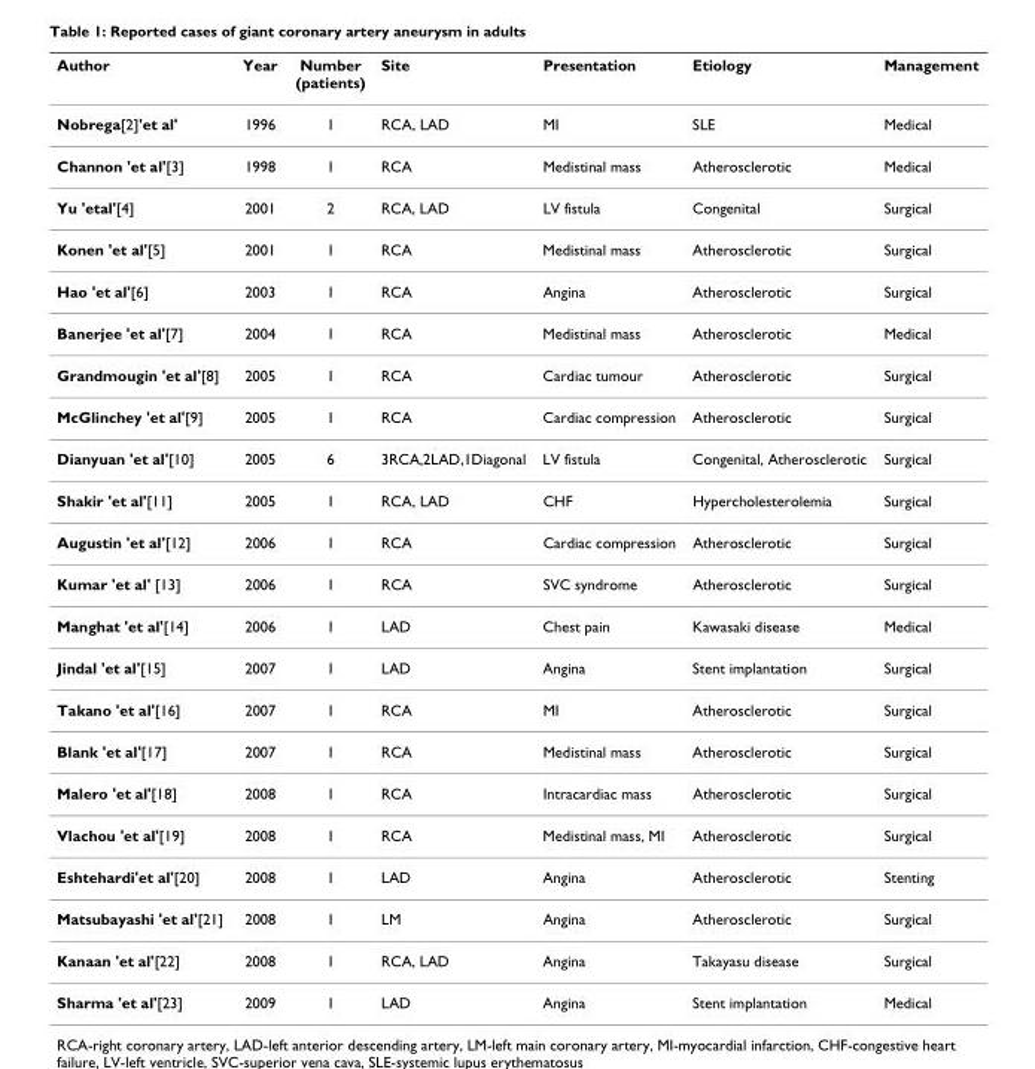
<table><thead><tr><td>Author</td><td>Year</td><td>Number (patients)</td><td>Site</td><td>Presentation</td><td>Etiology</td><td>Management</td></tr></thead><tbody><tr><td>Nobrega[2]&#x27;et al&#x27;</td><td>1996</td><td>1</td><td>RCA, LAD</td><td>MI</td><td>SLE</td><td>Medical</td></tr><tr><td>Channon &#x27;et al&#x27;[3]</td><td>1998</td><td>1</td><td>RCA</td><td>Medistinal mass</td><td>Atherosclerotic</td><td>Medical</td></tr><tr><td>Yu &#x27;etal&#x27;[4]</td><td>2001</td><td>2</td><td>RCA, LAD</td><td>LV fistula</td><td>Congenital</td><td>Surgical</td></tr><tr><td>Konen &#x27;et al&#x27;[5]</td><td>2001</td><td>1</td><td>RCA</td><td>Medistinal mass</td><td>Atherosclerotic</td><td>Surgical</td></tr><tr><td>Hao &#x27;et al&#x27;[6]</td><td>2003</td><td>1</td><td>RCA</td><td>Angina</td><td>Atherosclerotic</td><td>Surgical</td></tr><tr><td>Banerjee &#x27;et al&#x27;[7]</td><td>2004</td><td>1</td><td>RCA</td><td>Medistinal mass</td><td>Atherosclerotic</td><td>Medical</td></tr><tr><td>Grandmougin &#x27;et al&#x27;[8]</td><td>2005</td><td>1</td><td>RCA</td><td>Cardiac tumour</td><td>Atherosclerotic</td><td>Surgical</td></tr><tr><td>McGlinchey &#x27;et al&#x27;[9]</td><td>2005</td><td>1</td><td>RCA</td><td>Cardiac compression</td><td>Atherosclerotic</td><td>Surgical</td></tr><tr><td>Dianyuan &#x27;et al&#x27;[10]</td><td>2005</td><td>6</td><td>3RCA,2LAD,1Diagonal</td><td>LV fistula</td><td>Congenital, Atherosclerotic</td><td>Surgical</td></tr><tr><td>Shakir &#x27;et al&#x27;[11]</td><td>2005</td><td>1</td><td>RCA, LAD</td><td>CHF</td><td>Hypercholesterolemia</td><td>Surgical</td></tr><tr><td>Augustin &#x27;et al&#x27;[12]</td><td>2006</td><td>1</td><td>RCA</td><td>Cardiac compression</td><td>Atherosclerotic</td><td>Surgical</td></tr><tr><td>Kumar &#x27;et al&#x27; [13]</td><td>2006</td><td>1</td><td>RCA</td><td>SVC syndrome</td><td>Atherosclerotic</td><td>Surgical</td></tr><tr><td>Manghat &#x27;et al&#x27;[14]</td><td>2006</td><td>1</td><td>LAD</td><td>Chest pain</td><td>Kawasaki disease</td><td>Medical</td></tr><tr><td>Jindal &#x27;et al&#x27;[15]</td><td>2007</td><td>1</td><td>LAD</td><td>Angina</td><td>Stent implantation</td><td>Surgical</td></tr><tr><td>Takano &#x27;et al&#x27;[16]</td><td>2007</td><td>1</td><td>RCA</td><td>MI</td><td>Atherosclerotic</td><td>Surgical</td></tr><tr><td>Blank &#x27;et al&#x27;[17]</td><td>2007</td><td>1</td><td>RCA</td><td>Medistinal mass</td><td>Atherosclerotic</td><td>Surgical</td></tr><tr><td>Malero &#x27;et al&#x27;[18]</td><td>2008</td><td>1</td><td>RCA</td><td>Intracardiac mass</td><td>Atherosclerotic</td><td>Surgical</td></tr><tr><td>Vlachou &#x27;et al&#x27;[19]</td><td>2008</td><td>1</td><td>RCA</td><td>Medistinal mass, MI</td><td>Atherosclerotic</td><td>Surgical</td></tr><tr><td>Eshtehardi&#x27;et al&#x27;[20]</td><td>2008</td><td>1</td><td>LAD</td><td>Angina</td><td>Atherosclerotic</td><td>Stenting</td></tr><tr><td>Matsubayashi &#x27;et al&#x27;[21]</td><td>2008</td><td>1</td><td>LM</td><td>Angina</td><td>Atherosclerotic</td><td>Surgical</td></tr><tr><td>Kanaan &#x27;et al&#x27;[22]</td><td>2008</td><td>1</td><td>RCA, LAD</td><td>Angina</td><td>Takayasu disease</td><td>Surgical</td></tr><tr><td>Sharma &#x27;et al&#x27;[23]</td><td>2009</td><td>1</td><td>LAD</td><td>Angina</td><td>Stent implantation</td><td>Medical</td></tr></tbody></table>